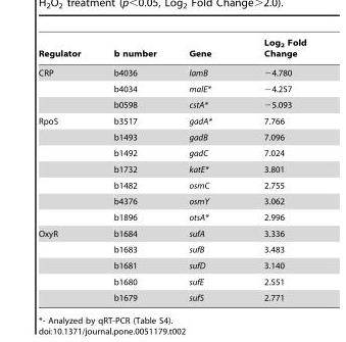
<table><thead><tr><td>Regulator</td><td>b number</td><td>Gene</td><td>Log<sub>2</sub> Fold Change</td></tr></thead><tbody><tr><td rowspan="3">CRP</td><td>b4036</td><td>lamB</td><td>−4.780</td></tr><tr><td>b4034</td><td>malE*</td><td>−4.257</td></tr><tr><td>b0598</td><td>cstA*</td><td>−5.093</td></tr><tr><td rowspan="7">RpoS</td><td>b3517</td><td>gadA*</td><td>7.766</td></tr><tr><td>b1493</td><td>gadB</td><td>7.096</td></tr><tr><td>b1492</td><td>gadC</td><td>7.024</td></tr><tr><td>b1732</td><td>katE*</td><td>3.801</td></tr><tr><td>b1482</td><td>osmC</td><td>2.755</td></tr><tr><td>b4376</td><td>osmY</td><td>3.062</td></tr><tr><td>b1896</td><td>otsA*</td><td>2.996</td></tr><tr><td rowspan="5">OxyR</td><td>b1684</td><td>sufA</td><td>3.336</td></tr><tr><td>b1683</td><td>sufB</td><td>3.483</td></tr><tr><td>b1681</td><td>sufD</td><td>3.140</td></tr><tr><td>b1680</td><td>sufE</td><td>2.551</td></tr><tr><td>b1679</td><td>sufS</td><td>2.771</td></tr></tbody></table>